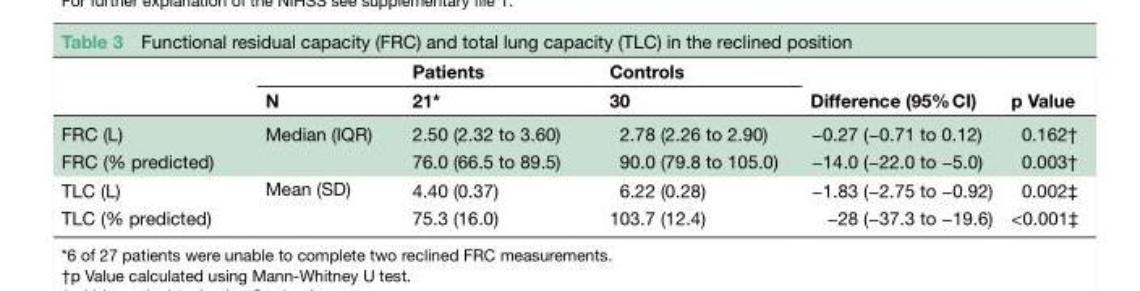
<table><thead><tr><td rowspan="2"></td><td rowspan="2">N</td><td rowspan="2">Patients 21*</td><td rowspan="2">Controls 30</td><td rowspan="2">Difference (95% CI)</td><td rowspan="2">p Value</td></tr><tr></tr></thead><tbody><tr><td>FRC (L)</td><td rowspan="2">Median (IQR)</td><td>2.50 (2.32 to 3.60)</td><td>2.78 (2.26 to 2.90)</td><td>−0.27 (−0.71 to 0.12)</td><td>0.162†</td></tr><tr><td>FRC (% predicted)</td><td>76.0 (66.5 to 89.5)</td><td>90.0 (79.8 to 105.0)</td><td>−14.0 (−22.0 to −5.0)</td><td>0.003†</td></tr><tr><td>TLC (L)</td><td rowspan="2">Mean (SD)</td><td>4.40 (0.37)</td><td>6.22 (0.28)</td><td>−1.83 (−2.75 to −0.92)</td><td>0.002‡</td></tr><tr><td>TLC (% predicted)</td><td>75.3 (16.0)</td><td>103.7 (12.4)</td><td>−28 (−37.3 to −19.6)</td><td>&lt;0.001‡</td></tr></tbody></table>